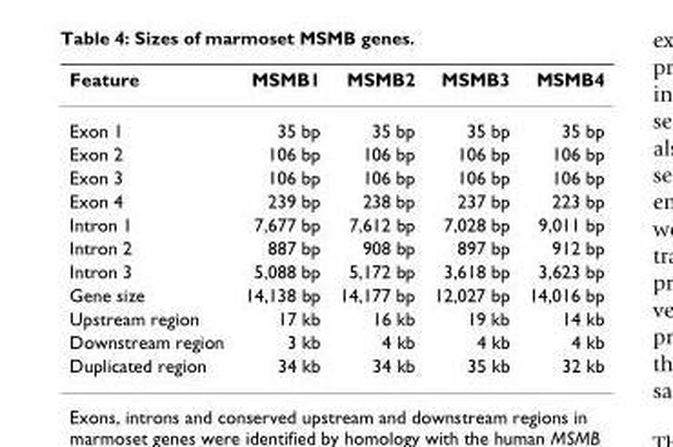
<table><thead><tr><td>Feature</td><td>MSMB1</td><td>MSMB2</td><td>MSMB3</td><td>MSMB4</td></tr></thead><tbody><tr><td>Exon 1</td><td>35 bp</td><td>35 bp</td><td>35 bp</td><td>35 bp</td></tr><tr><td>Exon 2</td><td>106 bp</td><td>106 bp</td><td>106 bp</td><td>106 bp</td></tr><tr><td>Exon 3</td><td>106 bp</td><td>106 bp</td><td>106 bp</td><td>106 bp</td></tr><tr><td>Exon 4</td><td>239 bp</td><td>238 bp</td><td>237 bp</td><td>223 bp</td></tr><tr><td>Intron 1</td><td>7,677 bp</td><td>7,612 bp</td><td>7,028 bp</td><td>9,011 bp</td></tr><tr><td>Intron 2</td><td>887 bp</td><td>908 bp</td><td>897 bp</td><td>912 bp</td></tr><tr><td>Intron 3</td><td>5,088 bp</td><td>5,172 bp</td><td>3,618 bp</td><td>3,623 bp</td></tr><tr><td>Gene size</td><td>14,138 bp</td><td>14,177 bp</td><td>12,027 bp</td><td>14,016 bp</td></tr><tr><td>Upstream region</td><td>17 kb</td><td>16 kb</td><td>19 kb</td><td>14 kb</td></tr><tr><td>Downstream region</td><td>3 kb</td><td>4 kb</td><td>4 kb</td><td>4 kb</td></tr><tr><td>Duplicated region</td><td>34 kb</td><td>34 kb</td><td>35 kb</td><td>32 kb</td></tr></tbody></table>